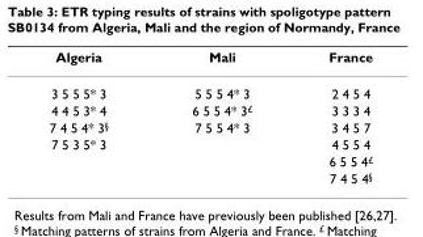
<table><thead><tr><td>Algeria</td><td>Mali</td><td>France</td></tr></thead><tbody><tr><td>3 5 5 5* 3</td><td>5 5 5 4* 3</td><td>2 4 5 4</td></tr><tr><td>4 4 5 3* 4</td><td>6 5 5 4* 3<sup>£</sup></td><td>3 3 3 4</td></tr><tr><td>7 4 5 4* 3<sup>§</sup></td><td>7 5 5 4* 3</td><td>3 4 5 7</td></tr><tr><td rowspan="3">7 5 3 5* 3</td><td></td><td>4 5 5 4</td></tr><tr><td></td><td>6 5 5 4<sup>£</sup></td></tr><tr><td></td><td>7 4 5 4<sup>§</sup></td></tr></tbody></table>